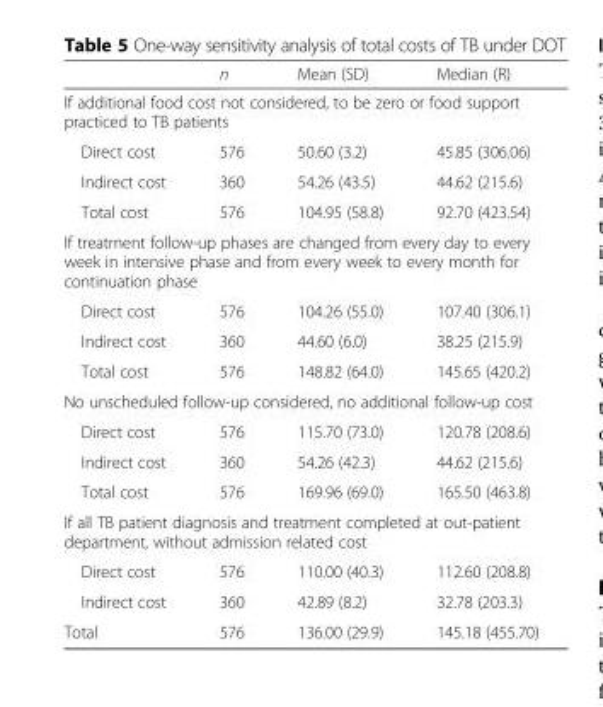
<table><thead><tr><td></td><td>n</td><td>Mean (SD)</td><td>Median (R)</td></tr></thead><tbody><tr><td colspan="4">If additional food cost not considered, to be zero or food support practiced to TB patients</td></tr><tr><td>Direct cost</td><td>576</td><td>50.60 (3.2)</td><td>45.85 (306.06)</td></tr><tr><td>Indirect cost</td><td>360</td><td>54.26 (43.5)</td><td>44.62 (215.6)</td></tr><tr><td>Total cost</td><td>576</td><td>104.95 (58.8)</td><td>92.70 (423.54)</td></tr><tr><td colspan="4">If treatment follow-up phases are changed from every day to every week in intensive phase and from every week to every month for continuation phase</td></tr><tr><td>Direct cost</td><td>576</td><td>104.26 (55.0)</td><td>107.40 (306.1)</td></tr><tr><td>Indirect cost</td><td>360</td><td>44.60 (6.0)</td><td>38.25 (215.9)</td></tr><tr><td>Total cost</td><td>576</td><td>148.82 (64.0)</td><td>145.65 (420.2)</td></tr><tr><td colspan="4">No unscheduled follow-up considered, no additional follow-up cost</td></tr><tr><td>Direct cost</td><td>576</td><td>115.70 (73.0)</td><td>120.78 (208.6)</td></tr><tr><td>Indirect cost</td><td>360</td><td>54.26 (42.3)</td><td>44.62 (215.6)</td></tr><tr><td>Total cost</td><td>576</td><td>169.96 (69.0)</td><td>165.50 (463.8)</td></tr><tr><td colspan="4">If all TB patient diagnosis and treatment completed at out-patient department, without admission related cost</td></tr><tr><td>Direct cost</td><td>576</td><td>110.00 (40.3)</td><td>112.60 (208.8)</td></tr><tr><td>Indirect cost</td><td>360</td><td>42.89 (8.2)</td><td>32.78 (203.3)</td></tr><tr><td>Total</td><td>576</td><td>136.00 (29.9)</td><td>145.18 (455.70)</td></tr></tbody></table>